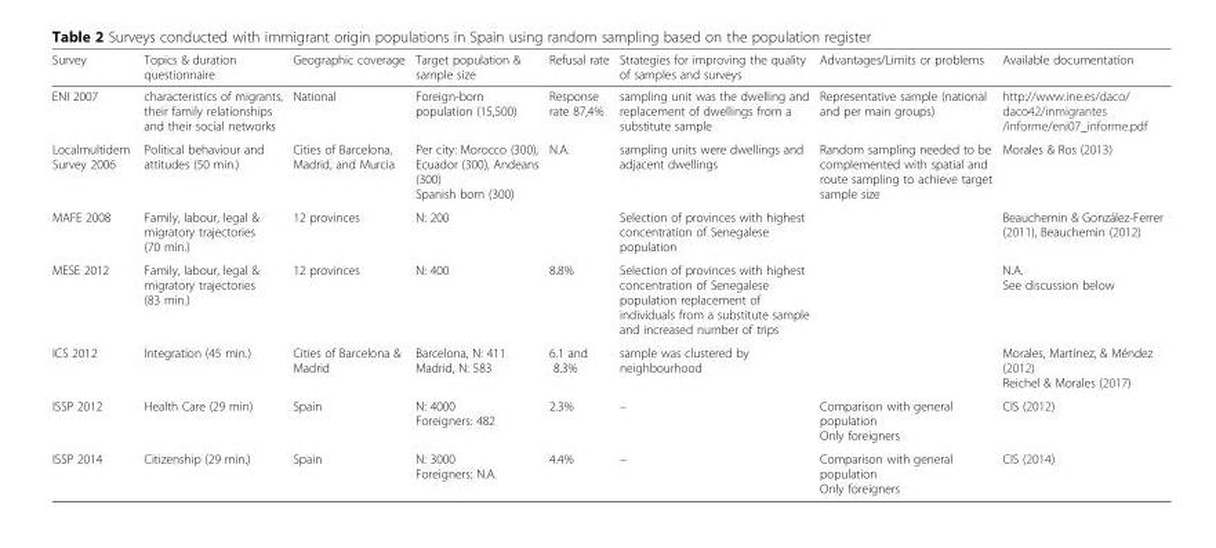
<table><thead><tr><td>Survey</td><td>Topics &amp; duration questionnaire</td><td>Geographic coverage</td><td>Target population &amp; sample size</td><td>Refusal rate</td><td>Strategies for improving the quality of samples and surveys</td><td>Advantages/Limits or problems</td><td>Available documentation</td></tr></thead><tbody><tr><td>ENI 2007</td><td>characteristics of migrants, their family relationships and their social networks</td><td>National</td><td>Foreign-born population (15,500)</td><td>Response rate 87,4%</td><td>sampling unit was the dwelling and replacement of dwellings from a substitute sample</td><td>Representative sample (national and per main groups)</td><td>http://www.ine.es/daco/ daco42/inmigrantes /informe/eni07_informe.pdf</td></tr><tr><td>Localmultidem Survey 2006</td><td>Political behaviour and attitudes (50 min.)</td><td>Cities of Barcelona, Madrid, and Murcia</td><td>Per city: Morocco (300), Ecuador (300), Andeans (300) Spanish born (300)</td><td>N.A.</td><td>sampling units were dwellings and adjacent dwellings</td><td>Random sampling needed to be complemented with spatial and route sampling to achieve target sample size</td><td>Morales &amp; Ros (2013)</td></tr><tr><td>MAFE 2008</td><td>Family, labour, legal &amp; migratory trajectories (70 min.)</td><td>12 provinces</td><td>N: 200</td><td></td><td>Selection of provinces with highest concentration of Senegalese population</td><td></td><td>Beauchemin &amp; González-Ferrer (2011), Beauchemin (2012)</td></tr><tr><td>MESE 2012</td><td>Family, labour, legal &amp; migratory trajectories (83 min.)</td><td>12 provinces</td><td>N: 400</td><td>8.8%</td><td>Selection of provinces with highest concentration of Senegalese population replacement of individuals from a substitute sample and increased number of trips</td><td></td><td>N.A. See discussion below</td></tr><tr><td>ICS 2012</td><td>Integration (45 min.)</td><td>Cities of Barcelona &amp; Madrid</td><td>Barcelona, N: 411 Madrid, N: 583</td><td>6.1 and 8.3%</td><td>sample was clustered by neighbourhood</td><td></td><td>Morales, Martínez, &amp; Méndez (2012) Reichel &amp; Morales (2017)</td></tr><tr><td>ISSP 2012</td><td>Health Care (29 min)</td><td>Spain</td><td>N: 4000 Foreigners: 482</td><td>2.3%</td><td>–</td><td>Comparison with general population Only foreigners</td><td>CIS (2012)</td></tr><tr><td>ISSP 2014</td><td>Citizenship (29 min.)</td><td>Spain</td><td>N: 3000 Foreigners: N.A.</td><td>4.4%</td><td>–</td><td>Comparison with general population Only foreigners</td><td>CIS (2014)</td></tr></tbody></table>